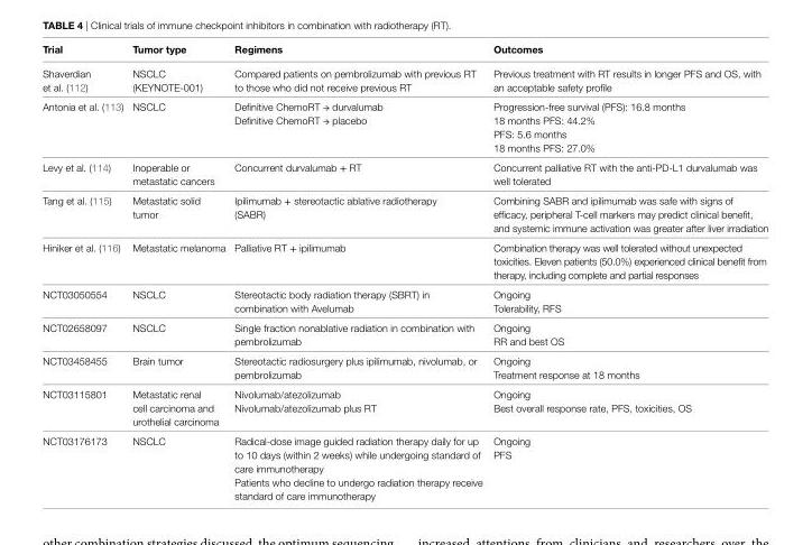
<table><thead><tr><td>Trial</td><td>Tumor type</td><td>Regimens</td><td>Outcomes</td></tr></thead><tbody><tr><td>Shaverdian et al. (112)</td><td>NSCLC (KEYNOTE-001)</td><td>Compared patients on pembrolizumab with previous RT to those who did not receive previous RT</td><td>Previous treatment with RT results in longer PFS and OS, with an acceptable safety profile</td></tr><tr><td>Antonia et al. (113)</td><td>NSCLC</td><td>Definitive ChemoRT → durvalumab Definitive ChemoRT → placebo</td><td>Progression-free survival (PFS): 16.8 months 18 months PFS: 44.2% PFS: 5.6 months 18 months PFS: 27.0%</td></tr><tr><td>Levy et al. (114)</td><td>Inoperable or metastatic cancers</td><td>Concurrent durvalumab + RT</td><td>Concurrent palliative RT with the anti-PD-L1 durvalumab was well tolerated</td></tr><tr><td>Tang et al. (115)</td><td>Metastatic solid tumor</td><td>Ipilimumab + stereotactic ablative radiotherapy (SABR)</td><td>Combining SABR and ipilimumab was safe with signs of efficacy, peripheral T-cell markers may predict clinical benefit, and systemic immune activation was greater after liver irradiation</td></tr><tr><td>Hiniker et al. (116)</td><td>Metastatic melanoma</td><td>Palliative RT + ipilimumab</td><td>Combination therapy was well tolerated without unexpected toxicities. Eleven patients (50.0%) experienced clinical benefit from therapy, including complete and partial responses</td></tr><tr><td>NCT03050554</td><td>NSCLC</td><td>Stereotactic body radiation therapy (SBRT) in combination with Avelumab</td><td>Ongoing Tolerability, RFS</td></tr><tr><td>NCT02658097</td><td>NSCLC</td><td>Single fraction nonablative radiation in combination with pembrolizumab</td><td>Ongoing RR and best OS</td></tr><tr><td>NCT03458455</td><td>Brain tumor</td><td>Stereotactic radiosurgery plus ipilimumab, nivolumab, or pembrolizumab</td><td>Ongoing Treatment response at 18 months</td></tr><tr><td>NCT03115801</td><td>Metastatic renal cell carcinoma and urothelial carcinoma</td><td>Nivolumab/atezolizumab Nivolumab/atezolizumab plus RT</td><td>Ongoing Best overall response rate, PFS, toxicities, OS</td></tr><tr><td>NCT03176173</td><td>NSCLC</td><td>Radical-dose image guided radiation therapy daily for up to 10 days (within 2 weeks) while undergoing standard of care immunotherapy Patients who decline to undergo radiation therapy receive standard of care immunotherapy</td><td>Ongoing PFS</td></tr></tbody></table>